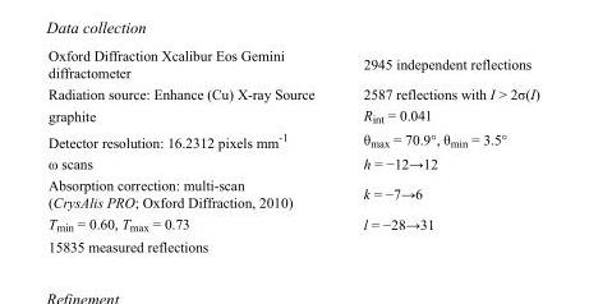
<table><tbody><tr><td>Oxford Diffraction Xcalibur Eos Gemini diffractometer</td><td>2945 independent reflections</td></tr><tr><td>Radiation source: Enhance (Cu) X-ray Source</td><td>2587 reflections with I &gt; 2σ(I)</td></tr><tr><td>graphite</td><td>R<sub>int</sub> = 0.041</td></tr><tr><td>Detector resolution: 16.2312 pixels mm<sup>-1</sup></td><td>θ<sub>max</sub> = 70.9°, θ<sub>min</sub> = 3.5°</td></tr><tr><td>ω scans</td><td>h = −12→12</td></tr><tr><td>Absorption correction: multi-scan (CrysAlis PRO; Oxford Diffraction, 2010)</td><td>k = −7→6</td></tr><tr><td>T<sub>min</sub> = 0.60, T<sub>max</sub> = 0.73</td><td>l = −28→31</td></tr><tr><td>15835 measured reflections</td><td></td></tr></tbody></table>